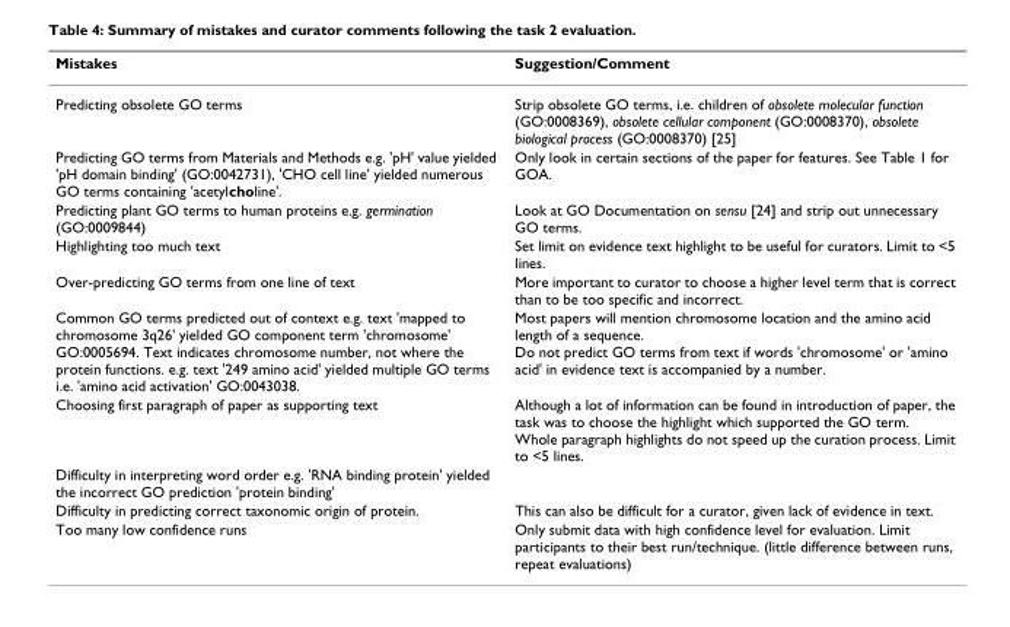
<table><thead><tr><td>Mistakes</td><td>Suggestion/Comment</td></tr></thead><tbody><tr><td>Predicting obsolete GO terms</td><td>Strip obsolete GO terms, i.e. children of obsolete molecular function (GO:0008369), obsolete cellular component (GO:0008370), obsolete biological process (GO:0008370) [25]</td></tr><tr><td>Predicting GO terms from Materials and Methods e.g. &#x27;pH&#x27; value yielded &#x27;pH domain binding&#x27; (GO:0042731), &#x27;CHO cell line&#x27; yielded numerous GO terms containing &#x27;acetylcholine&#x27;.</td><td>Only look in certain sections of the paper for features. See Table 1 for GOA.</td></tr><tr><td>Predicting plant GO terms to human proteins e.g. germination (GO:0009844)</td><td>Look at GO Documentation on sensu [24] and strip out unnecessary GO terms.</td></tr><tr><td>Highlighting too much text</td><td>Set limit on evidence text highlight to be useful for curators. Limit to &lt;5 lines.</td></tr><tr><td>Over-predicting GO terms from one line of text</td><td>More important to curator to choose a higher level term that is correct than to be too specific and incorrect.</td></tr><tr><td>Common GO terms predicted out of context e.g. text &#x27;mapped to chromosome 3q26&#x27; yielded GO component term &#x27;chromosome&#x27; GO:0005694. Text indicates chromosome number, not where the protein functions. e.g. text &#x27;249 amino acid&#x27; yielded multiple GO terms i.e. &#x27;amino acid activation&#x27; GO:0043038.</td><td>Most papers will mention chromosome location and the amino acid length of a sequence. Do not predict GO terms from text if words &#x27;chromosome&#x27; or &#x27;amino acid&#x27; in evidence text is accompanied by a number.</td></tr><tr><td>Choosing first paragraph of paper as supporting text</td><td>Although a lot of information can be found in introduction of paper, the task was to choose the highlight which supported the GO term. Whole paragraph highlights do not speed up the curation process. Limit to &lt;5 lines.</td></tr><tr><td colspan="2">Difficulty in interpreting word order e.g. &#x27;RNA binding protein&#x27; yielded the incorrect GO prediction &#x27;protein binding&#x27;</td></tr><tr><td>Difficulty in predicting correct taxonomic origin of protein.</td><td>This can also be difficult for a curator, given lack of evidence in text.</td></tr><tr><td>Too many low confidence runs</td><td>Only submit data with high confidence level for evaluation. Limit participants to their best run/technique. (little difference between runs, repeat evaluations)</td></tr></tbody></table>